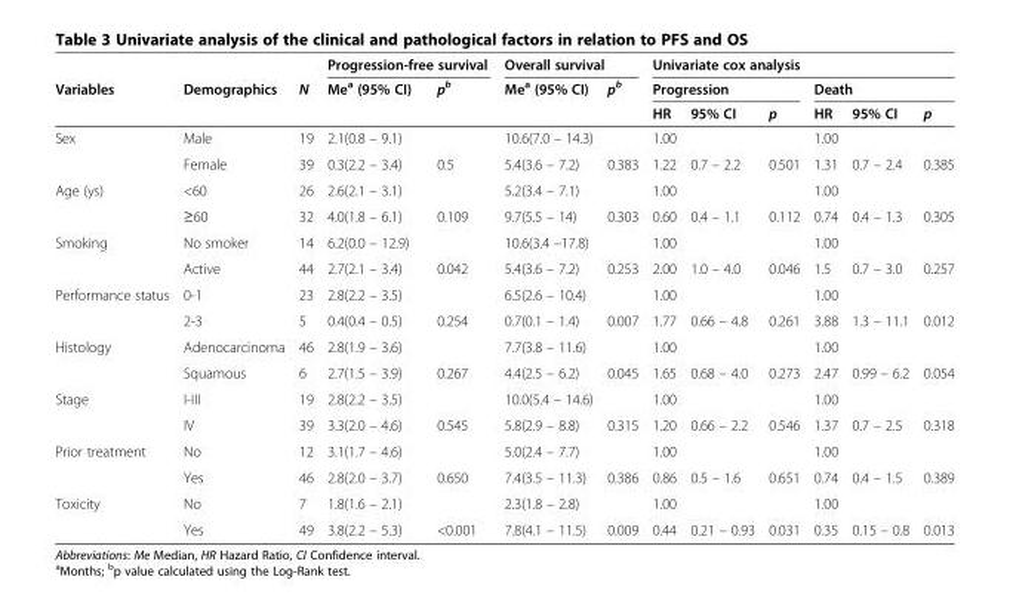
<table><thead><tr><td rowspan="3">Variables</td><td rowspan="3">Demographics</td><td rowspan="3">N</td><td colspan="2">Progression-free survival</td><td colspan="2">Overall survival</td><td colspan="6">Univariate cox analysis</td></tr><tr><td rowspan="2">Me<sup>a</sup> (95% CI)</td><td rowspan="2">p<sup>b</sup></td><td rowspan="2">Me<sup>a</sup> (95% CI)</td><td rowspan="2">p<sup>b</sup></td><td colspan="3">Progression</td><td colspan="3">Death</td></tr><tr><td>HR</td><td>95% CI</td><td>p</td><td>HR</td><td>95% CI</td><td>p</td></tr></thead><tbody><tr><td rowspan="2">Sex</td><td>Male</td><td>19</td><td>2.1(0.8 – 9.1)</td><td></td><td>10.6(7.0 – 14.3)</td><td></td><td>1.00</td><td></td><td></td><td>1.00</td><td></td><td></td></tr><tr><td>Female</td><td>39</td><td>0.3(2.2 – 3.4)</td><td>0.5</td><td>5.4(3.6 – 7.2)</td><td>0.383</td><td>1.22</td><td>0.7 – 2.2</td><td>0.501</td><td>1.31</td><td>0.7 – 2.4</td><td>0.385</td></tr><tr><td rowspan="2">Age (ys)</td><td>&lt;60</td><td>26</td><td>2.6(2.1 – 3.1)</td><td></td><td>5.2(3.4 – 7.1)</td><td></td><td>1.00</td><td></td><td></td><td>1.00</td><td></td><td></td></tr><tr><td>≥60</td><td>32</td><td>4.0(1.8 – 6.1)</td><td>0.109</td><td>9.7(5.5 – 14)</td><td>0.303</td><td>0.60</td><td>0.4 – 1.1</td><td>0.112</td><td>0.74</td><td>0.4 – 1.3</td><td>0.305</td></tr><tr><td rowspan="2">Smoking</td><td>No smoker</td><td>14</td><td>6.2(0.0 – 12.9)</td><td></td><td>10.6(3.4 –17.8)</td><td></td><td>1.00</td><td></td><td></td><td>1.00</td><td></td><td></td></tr><tr><td>Active</td><td>44</td><td>2.7(2.1 – 3.4)</td><td>0.042</td><td>5.4(3.6 – 7.2)</td><td>0.253</td><td>2.00</td><td>1.0 – 4.0</td><td>0.046</td><td>1.5</td><td>0.7 – 3.0</td><td>0.257</td></tr><tr><td rowspan="2">Performance status</td><td>0-1</td><td>23</td><td>2.8(2.2 – 3.5)</td><td></td><td>6.5(2.6 – 10.4)</td><td></td><td>1.00</td><td></td><td></td><td>1.00</td><td></td><td></td></tr><tr><td>2-3</td><td>5</td><td>0.4(0.4 – 0.5)</td><td>0.254</td><td>0.7(0.1 – 1.4)</td><td>0.007</td><td>1.77</td><td>0.66 – 4.8</td><td>0.261</td><td>3.88</td><td>1.3 – 11.1</td><td>0.012</td></tr><tr><td rowspan="2">Histology</td><td>Adenocarcinoma</td><td>46</td><td>2.8(1.9 – 3.6)</td><td></td><td>7.7(3.8 – 11.6)</td><td></td><td>1.00</td><td></td><td></td><td>1.00</td><td></td><td></td></tr><tr><td>Squamous</td><td>6</td><td>2.7(1.5 – 3.9)</td><td>0.267</td><td>4.4(2.5 – 6.2)</td><td>0.045</td><td>1.65</td><td>0.68 – 4.0</td><td>0.273</td><td>2.47</td><td>0.99 – 6.2</td><td>0.054</td></tr><tr><td rowspan="2">Stage</td><td>I-III</td><td>19</td><td>2.8(2.2 – 3.5)</td><td></td><td>10.0(5.4 – 14.6)</td><td></td><td>1.00</td><td></td><td></td><td>1.00</td><td></td><td></td></tr><tr><td>IV</td><td>39</td><td>3.3(2.0 – 4.6)</td><td>0.545</td><td>5.8(2.9 – 8.8)</td><td>0.315</td><td>1.20</td><td>0.66 – 2.2</td><td>0.546</td><td>1.37</td><td>0.7 – 2.5</td><td>0.318</td></tr><tr><td rowspan="2">Prior treatment</td><td>No</td><td>12</td><td>3.1(1.7 – 4.6)</td><td></td><td>5.0(2.4 – 7.7)</td><td></td><td>1.00</td><td></td><td></td><td>1.00</td><td></td><td></td></tr><tr><td>Yes</td><td>46</td><td>2.8(2.0 – 3.7)</td><td>0.650</td><td>7.4(3.5 – 11.3)</td><td>0.386</td><td>0.86</td><td>0.5 – 1.6</td><td>0.651</td><td>0.74</td><td>0.4 – 1.5</td><td>0.389</td></tr><tr><td rowspan="2">Toxicity</td><td>No</td><td>7</td><td>1.8(1.6 – 2.1)</td><td></td><td>2.3(1.8 – 2.8)</td><td></td><td>1.00</td><td></td><td></td><td>1.00</td><td></td><td></td></tr><tr><td>Yes</td><td>49</td><td>3.8(2.2 – 5.3)</td><td>&lt;0.001</td><td>7.8(4.1 – 11.5)</td><td>0.009</td><td>0.44</td><td>0.21 – 0.93</td><td>0.031</td><td>0.35</td><td>0.15 – 0.8</td><td>0.013</td></tr></tbody></table>